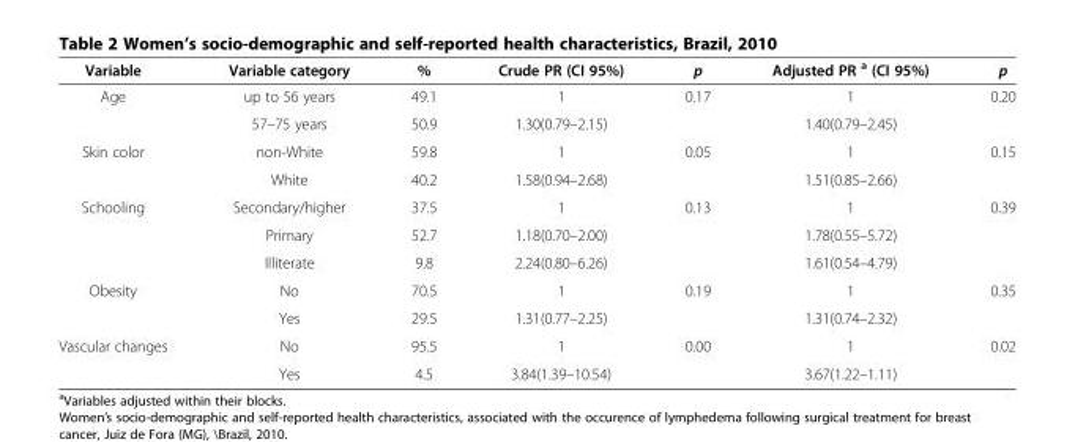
<table><thead><tr><td>Variable</td><td>Variable category</td><td>%</td><td>Crude PR (CI 95%)</td><td>p</td><td>Adjusted PR <sup>a</sup> (CI 95%)</td><td>p</td></tr></thead><tbody><tr><td rowspan="2">Age</td><td>up to 56 years</td><td>49.1</td><td>1</td><td>0.17</td><td>1</td><td>0.20</td></tr><tr><td>57–75 years</td><td>50.9</td><td>1.30(0.79–2.15)</td><td></td><td>1.40(0.79–2.45)</td><td></td></tr><tr><td rowspan="2">Skin color</td><td>non-White</td><td>59.8</td><td>1</td><td>0.05</td><td>1</td><td>0.15</td></tr><tr><td>White</td><td>40.2</td><td>1.58(0.94–2.68)</td><td></td><td>1.51(0.85–2.66)</td><td></td></tr><tr><td rowspan="3">Schooling</td><td>Secondary/higher</td><td>37.5</td><td>1</td><td>0.13</td><td>1</td><td>0.39</td></tr><tr><td>Primary</td><td>52.7</td><td>1.18(0.70–2.00)</td><td></td><td>1.78(0.55–5.72)</td><td></td></tr><tr><td>Illiterate</td><td>9.8</td><td>2.24(0.80–6.26)</td><td></td><td>1.61(0.54–4.79)</td><td></td></tr><tr><td rowspan="2">Obesity</td><td>No</td><td>70.5</td><td>1</td><td>0.19</td><td>1</td><td>0.35</td></tr><tr><td>Yes</td><td>29.5</td><td>1.31(0.77–2.25)</td><td></td><td>1.31(0.74–2.32)</td><td></td></tr><tr><td rowspan="2">Vascular changes</td><td>No</td><td>95.5</td><td>1</td><td>0.00</td><td>1</td><td>0.02</td></tr><tr><td>Yes</td><td>4.5</td><td>3.84(1.39–10.54)</td><td></td><td>3.67(1.22–1.11)</td><td></td></tr></tbody></table>